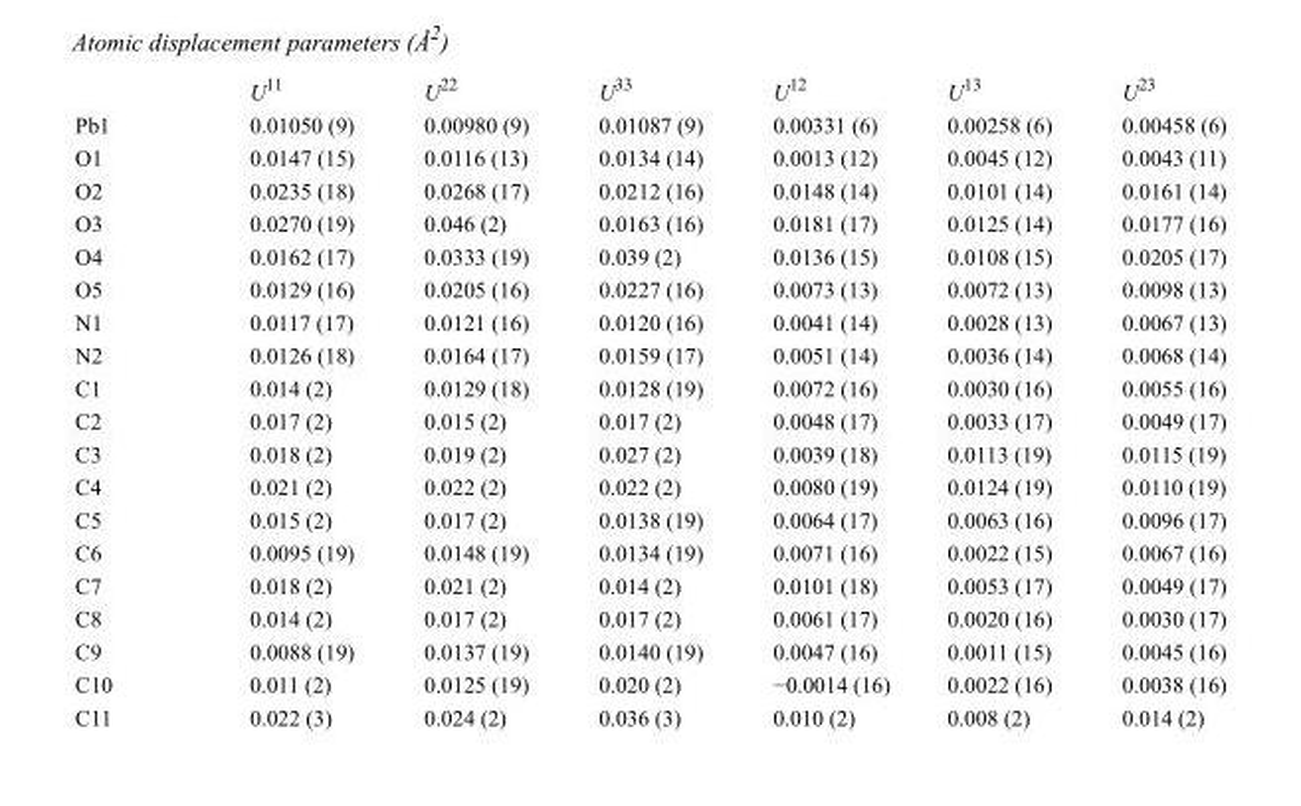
<table><thead><tr><td></td><td>U<sup>11</sup></td><td>U<sup>22</sup></td><td>U<sup>33</sup></td><td>U<sup>12</sup></td><td>U<sup>13</sup></td><td>U<sup>23</sup></td></tr></thead><tbody><tr><td>Pb1</td><td>0.01050 (9)</td><td>0.00980 (9)</td><td>0.01087 (9)</td><td>0.00331 (6)</td><td>0.00258 (6)</td><td>0.00458 (6)</td></tr><tr><td>O1</td><td>0.0147 (15)</td><td>0.0116 (13)</td><td>0.0134 (14)</td><td>0.0013 (12)</td><td>0.0045 (12)</td><td>0.0043 (11)</td></tr><tr><td>O2</td><td>0.0235 (18)</td><td>0.0268 (17)</td><td>0.0212 (16)</td><td>0.0148 (14)</td><td>0.0101 (14)</td><td>0.0161 (14)</td></tr><tr><td>O3</td><td>0.0270 (19)</td><td>0.046 (2)</td><td>0.0163 (16)</td><td>0.0181 (17)</td><td>0.0125 (14)</td><td>0.0177 (16)</td></tr><tr><td>O4</td><td>0.0162 (17)</td><td>0.0333 (19)</td><td>0.039 (2)</td><td>0.0136 (15)</td><td>0.0108 (15)</td><td>0.0205 (17)</td></tr><tr><td>O5</td><td>0.0129 (16)</td><td>0.0205 (16)</td><td>0.0227 (16)</td><td>0.0073 (13)</td><td>0.0072 (13)</td><td>0.0098 (13)</td></tr><tr><td>N1</td><td>0.0117 (17)</td><td>0.0121 (16)</td><td>0.0120 (16)</td><td>0.0041 (14)</td><td>0.0028 (13)</td><td>0.0067 (13)</td></tr><tr><td>N2</td><td>0.0126 (18)</td><td>0.0164 (17)</td><td>0.0159 (17)</td><td>0.0051 (14)</td><td>0.0036 (14)</td><td>0.0068 (14)</td></tr><tr><td>C1</td><td>0.014 (2)</td><td>0.0129 (18)</td><td>0.0128 (19)</td><td>0.0072 (16)</td><td>0.0030 (16)</td><td>0.0055 (16)</td></tr><tr><td>C2</td><td>0.017 (2)</td><td>0.015 (2)</td><td>0.017 (2)</td><td>0.0048 (17)</td><td>0.0033 (17)</td><td>0.0049 (17)</td></tr><tr><td>C3</td><td>0.018 (2)</td><td>0.019 (2)</td><td>0.027 (2)</td><td>0.0039 (18)</td><td>0.0113 (19)</td><td>0.0115 (19)</td></tr><tr><td>C4</td><td>0.021 (2)</td><td>0.022 (2)</td><td>0.022 (2)</td><td>0.0080 (19)</td><td>0.0124 (19)</td><td>0.0110 (19)</td></tr><tr><td>C5</td><td>0.015 (2)</td><td>0.017 (2)</td><td>0.0138 (19)</td><td>0.0064 (17)</td><td>0.0063 (16)</td><td>0.0096 (17)</td></tr><tr><td>C6</td><td>0.0095 (19)</td><td>0.0148 (19)</td><td>0.0134 (19)</td><td>0.0071 (16)</td><td>0.0022 (15)</td><td>0.0067 (16)</td></tr><tr><td>C7</td><td>0.018 (2)</td><td>0.021 (2)</td><td>0.014 (2)</td><td>0.0101 (18)</td><td>0.0053 (17)</td><td>0.0049 (17)</td></tr><tr><td>C8</td><td>0.014 (2)</td><td>0.017 (2)</td><td>0.017 (2)</td><td>0.0061 (17)</td><td>0.0020 (16)</td><td>0.0030 (17)</td></tr><tr><td>C9</td><td>0.0088 (19)</td><td>0.0137 (19)</td><td>0.0140 (19)</td><td>0.0047 (16)</td><td>0.0011 (15)</td><td>0.0045 (16)</td></tr><tr><td>C10</td><td>0.011 (2)</td><td>0.0125 (19)</td><td>0.020 (2)</td><td>−0.0014 (16)</td><td>0.0022 (16)</td><td>0.0038 (16)</td></tr><tr><td>C11</td><td>0.022 (3)</td><td>0.024 (2)</td><td>0.036 (3)</td><td>0.010 (2)</td><td>0.008 (2)</td><td>0.014 (2)</td></tr></tbody></table>